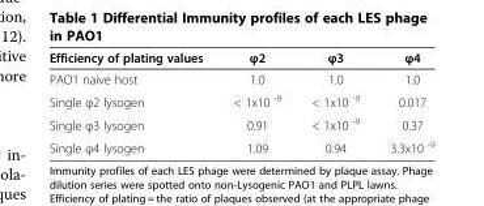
<table><thead><tr><td>Efficiency of plating values</td><td>φ2</td><td>φ3</td><td>φ4</td></tr></thead><tbody><tr><td>PAO1 naive host</td><td>1.0</td><td>1.0</td><td>1.0</td></tr><tr><td>Single φ2 lysogen</td><td>&lt; 1x10 <sup>-9</sup></td><td>&lt; 1x10 <sup>-9</sup></td><td>0.017</td></tr><tr><td>Single φ3 lysogen</td><td>0.91</td><td>&lt; 1x10 <sup>-9</sup></td><td>0.37</td></tr><tr><td>Single φ4 lysogen</td><td>1.09</td><td>0.94</td><td>3.3x10 <sup>-9</sup></td></tr></tbody></table>